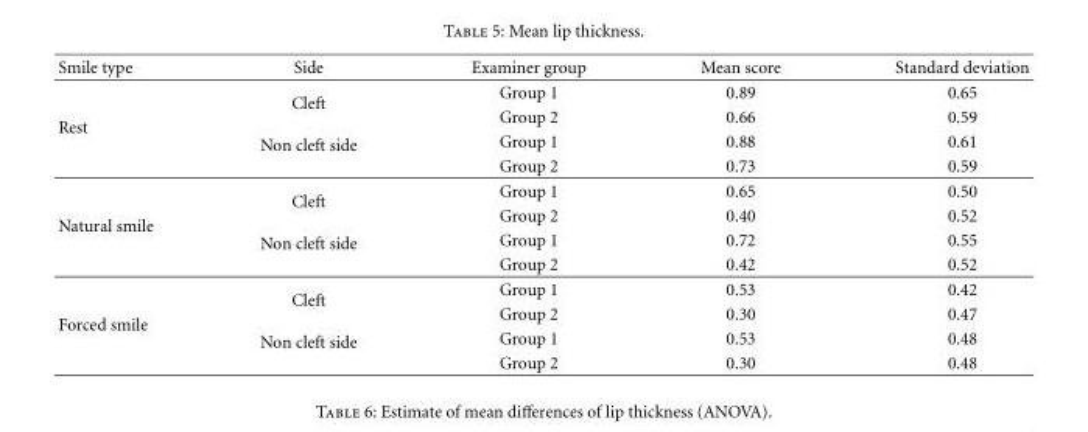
<table><thead><tr><td>Smile type</td><td>Side</td><td>Examiner group</td><td>Mean score</td><td>Standard deviation</td></tr></thead><tbody><tr><td rowspan="4">Rest</td><td rowspan="2">Cleft</td><td>Group 1</td><td>0.89</td><td>0.65</td></tr><tr><td>Group 2</td><td>0.66</td><td>0.59</td></tr><tr><td rowspan="2">Non cleft side</td><td>Group 1</td><td>0.88</td><td>0.61</td></tr><tr><td>Group 2</td><td>0.73</td><td>0.59</td></tr><tr><td rowspan="4">Natural smile</td><td rowspan="2">Cleft</td><td>Group 1</td><td>0.65</td><td>0.50</td></tr><tr><td>Group 2</td><td>0.40</td><td>0.52</td></tr><tr><td rowspan="2">Non cleft side</td><td>Group 1</td><td>0.72</td><td>0.55</td></tr><tr><td>Group 2</td><td>0.42</td><td>0.52</td></tr><tr><td rowspan="4">Forced smile</td><td rowspan="2">Cleft</td><td>Group 1</td><td>0.53</td><td>0.42</td></tr><tr><td>Group 2</td><td>0.30</td><td>0.47</td></tr><tr><td rowspan="2">Non cleft side</td><td>Group 1</td><td>0.53</td><td>0.48</td></tr><tr><td>Group 2</td><td>0.30</td><td>0.48</td></tr></tbody></table>